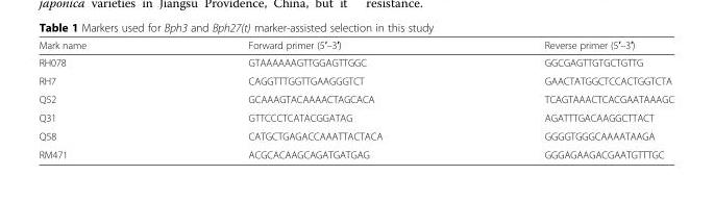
<table><thead><tr><td>Mark name</td><td>Forward primer (5′–3′)</td><td>Reverse primer (5′–3′)</td></tr></thead><tbody><tr><td>RH078</td><td>GTAAAAAAGTTGGAGTTGGC</td><td>GGCGAGTTGTGCTGTTG</td></tr><tr><td>RH7</td><td>CAGGTTTGGTTGAAGGGTCT</td><td>GAACTATGGCTCCACTGGTCTA</td></tr><tr><td>Q52</td><td>GCAAAGTACAAAACTAGCACA</td><td>TCAGTAAACTCACGAATAAAGC</td></tr><tr><td>Q31</td><td>GTTCCCTCATACGGATAG</td><td>AGATTTGACAAGGCTTACT</td></tr><tr><td>Q58</td><td>CATGCTGAGACCAAATTACTACA</td><td>GGGGTGGGCAAAATAAGA</td></tr><tr><td>RM471</td><td>ACGCACAAGCAGATGATGAG</td><td>GGGAGAAGACGAATGTTTGC</td></tr></tbody></table>